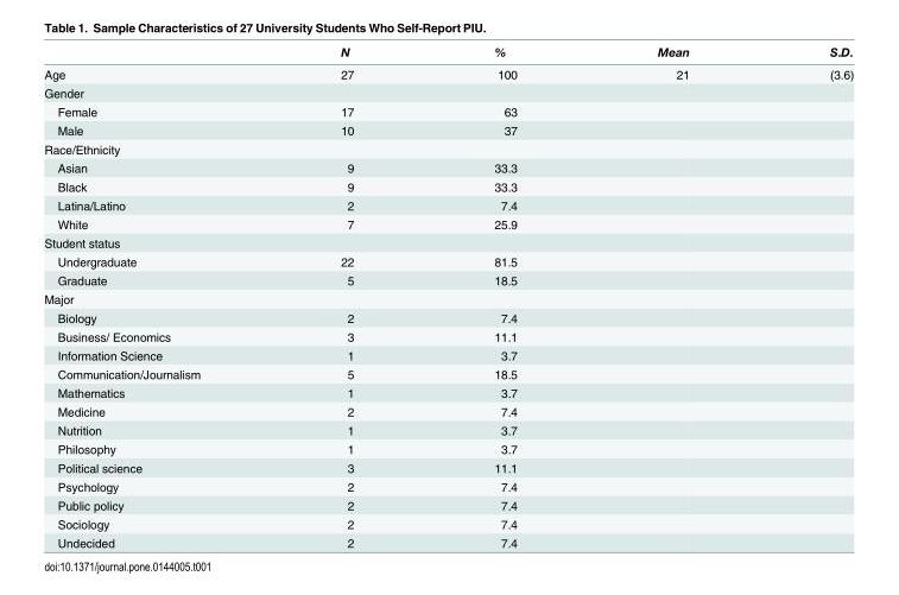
<table><thead><tr><td></td><td>N</td><td>%</td><td>Mean</td><td>S.D.</td></tr></thead><tbody><tr><td>Age</td><td>27</td><td>100</td><td>21</td><td>(3.6)</td></tr><tr><td colspan="5">Gender</td></tr><tr><td>Female</td><td>17</td><td>63</td><td></td><td></td></tr><tr><td>Male</td><td>10</td><td>37</td><td></td><td></td></tr><tr><td colspan="5">Race/Ethnicity</td></tr><tr><td>Asian</td><td>9</td><td>33.3</td><td></td><td></td></tr><tr><td>Black</td><td>9</td><td>33.3</td><td></td><td></td></tr><tr><td>Latina/Latino</td><td>2</td><td>7.4</td><td></td><td></td></tr><tr><td>White</td><td>7</td><td>25.9</td><td></td><td></td></tr><tr><td colspan="5">Student status</td></tr><tr><td>Undergraduate</td><td>22</td><td>81.5</td><td></td><td></td></tr><tr><td>Graduate</td><td>5</td><td>18.5</td><td></td><td></td></tr><tr><td colspan="5">Major</td></tr><tr><td>Biology</td><td>2</td><td>7.4</td><td></td><td></td></tr><tr><td>Business/ Economics</td><td>3</td><td>11.1</td><td></td><td></td></tr><tr><td>Information Science</td><td>1</td><td>3.7</td><td></td><td></td></tr><tr><td>Communication/Journalism</td><td>5</td><td>18.5</td><td></td><td></td></tr><tr><td>Mathematics</td><td>1</td><td>3.7</td><td></td><td></td></tr><tr><td>Medicine</td><td>2</td><td>7.4</td><td></td><td></td></tr><tr><td>Nutrition</td><td>1</td><td>3.7</td><td></td><td></td></tr><tr><td>Philosophy</td><td>1</td><td>3.7</td><td></td><td></td></tr><tr><td>Political science</td><td>3</td><td>11.1</td><td></td><td></td></tr><tr><td>Psychology</td><td>2</td><td>7.4</td><td></td><td></td></tr><tr><td>Public policy</td><td>2</td><td>7.4</td><td></td><td></td></tr><tr><td>Sociology</td><td>2</td><td>7.4</td><td></td><td></td></tr><tr><td>Undecided</td><td>2</td><td>7.4</td><td></td><td></td></tr></tbody></table>